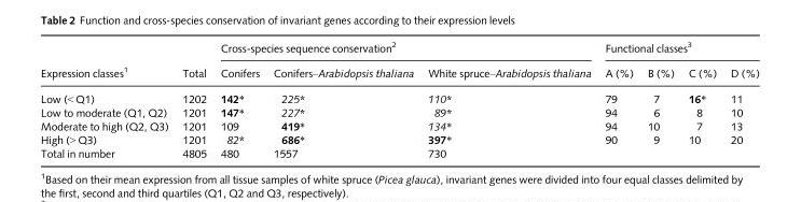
<table><thead><tr><td rowspan="2">Expression classes1</td><td rowspan="2">Total</td><td colspan="3">Cross-species sequence conservation2</td><td colspan="4">Functional classes3</td></tr><tr><td>Conifers</td><td>Conifers–Arabidopsis thaliana</td><td>White spruce–Arabidopsis thaliana</td><td>A (%)</td><td>B (%)</td><td>C (%)</td><td>D (%)</td></tr></thead><tbody><tr><td>Low (&lt; Q1)</td><td>1202</td><td>142*</td><td>225*</td><td>110*</td><td>79</td><td>7</td><td>16*</td><td>11</td></tr><tr><td>Low to moderate (Q1, Q2)</td><td>1201</td><td>147*</td><td>227*</td><td>89*</td><td>94</td><td>6</td><td>8</td><td>10</td></tr><tr><td>Moderate to high (Q2, Q3)</td><td>1201</td><td>109</td><td>419*</td><td>134*</td><td>94</td><td>10</td><td>7</td><td>13</td></tr><tr><td>High (&gt; Q3)</td><td>1201</td><td>82*</td><td>686*</td><td>397*</td><td>90</td><td>9</td><td>10</td><td>20</td></tr><tr><td>Total in number</td><td>4805</td><td>480</td><td>1557</td><td>730</td><td></td><td></td><td></td><td></td></tr></tbody></table>